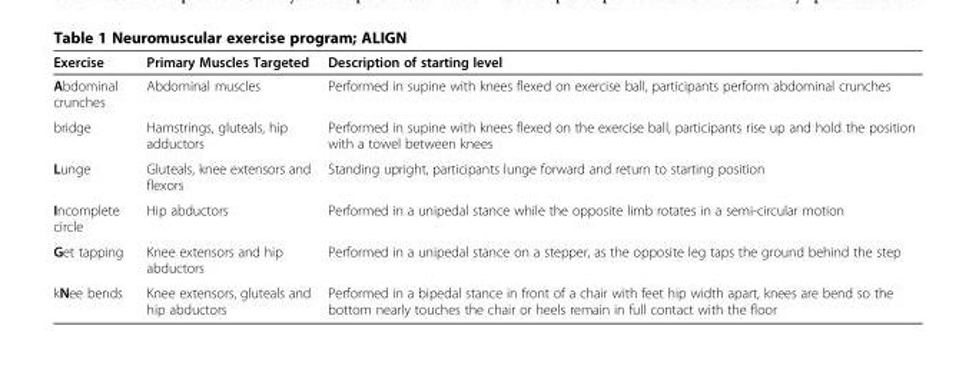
<table><thead><tr><td>Exercise</td><td>Primary Muscles Targeted</td><td>Description of starting level</td></tr></thead><tbody><tr><td>Abdominal crunches</td><td>Abdominal muscles</td><td>Performed in supine with knees flexed on exercise ball, participants perform abdominal crunches</td></tr><tr><td>bridge</td><td>Hamstrings, gluteals, hip adductors</td><td>Performed in supine with knees flexed on the exercise ball, participants rise up and hold the position with a towel between knees</td></tr><tr><td>Lunge</td><td>Gluteals, knee extensors and flexors</td><td>Standing upright, participants lunge forward and return to starting position</td></tr><tr><td>Incomplete circle</td><td>Hip abductors</td><td>Performed in a unipedal stance while the opposite limb rotates in a semi-circular motion</td></tr><tr><td>Get tapping</td><td>Knee extensors and hip abductors</td><td>Performed in a unipedal stance on a stepper, as the opposite leg taps the ground behind the step</td></tr><tr><td>kNee bends</td><td>Knee extensors, gluteals and hip abductors</td><td>Performed in a bipedal stance in front of a chair with feet hip width apart, knees are bend so the bottom nearly touches the chair or heels remain in full contact with the floor</td></tr></tbody></table>